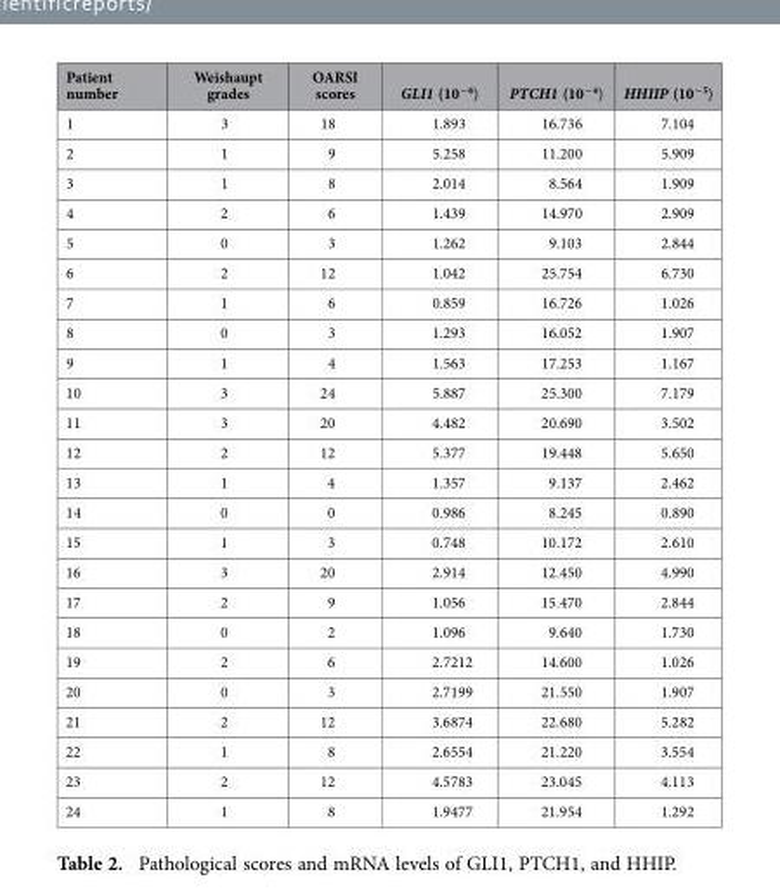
<table><thead><tr><td>Patient number</td><td>Weishaupt grades</td><td>OARSI scores</td><td>GLI1 (10<sup>−6</sup>)</td><td>PTCH1 (10<sup>−4</sup>)</td><td>HHIIP (10<sup>−5</sup>)</td></tr></thead><tbody><tr><td>1</td><td>3</td><td>18</td><td>1.893</td><td>16.736</td><td>7.104</td></tr><tr><td>2</td><td>1</td><td>9</td><td>5.258</td><td>11.200</td><td>5.909</td></tr><tr><td>3</td><td>1</td><td>8</td><td>2.014</td><td>8.564</td><td>1.909</td></tr><tr><td>4</td><td>2</td><td>6</td><td>1.439</td><td>14.970</td><td>2.909</td></tr><tr><td>5</td><td>0</td><td>3</td><td>1.262</td><td>9.103</td><td>2.844</td></tr><tr><td>6</td><td>2</td><td>12</td><td>1.042</td><td>25.754</td><td>6.730</td></tr><tr><td>7</td><td>1</td><td>6</td><td>0.859</td><td>16.726</td><td>1.026</td></tr><tr><td>8</td><td>0</td><td>3</td><td>1.293</td><td>16.052</td><td>1.907</td></tr><tr><td>9</td><td>1</td><td>4</td><td>1.563</td><td>17.253</td><td>1.167</td></tr><tr><td>10</td><td>3</td><td>24</td><td>5.887</td><td>25.300</td><td>7.179</td></tr><tr><td>11</td><td>3</td><td>20</td><td>4.482</td><td>20.690</td><td>3.502</td></tr><tr><td>12</td><td>2</td><td>12</td><td>5.377</td><td>19.448</td><td>5.650</td></tr><tr><td>13</td><td>1</td><td>4</td><td>1.357</td><td>9.137</td><td>2.462</td></tr><tr><td>14</td><td>0</td><td>0</td><td>0.986</td><td>8.245</td><td>0.890</td></tr><tr><td>15</td><td>1</td><td>3</td><td>0.748</td><td>10.172</td><td>2.610</td></tr><tr><td>16</td><td>3</td><td>20</td><td>2.914</td><td>12.450</td><td>4.990</td></tr><tr><td>17</td><td>2</td><td>9</td><td>1.056</td><td>15.470</td><td>2.844</td></tr><tr><td>18</td><td>0</td><td>2</td><td>1.096</td><td>9.640</td><td>1.730</td></tr><tr><td>19</td><td>2</td><td>6</td><td>2.7212</td><td>14.600</td><td>1.026</td></tr><tr><td>20</td><td>0</td><td>3</td><td>2.7199</td><td>21.550</td><td>1.907</td></tr><tr><td>21</td><td>2</td><td>12</td><td>3.6874</td><td>22.680</td><td>5.282</td></tr><tr><td>22</td><td>1</td><td>8</td><td>2.6554</td><td>21.220</td><td>3.554</td></tr><tr><td>23</td><td>2</td><td>12</td><td>4.5783</td><td>23.045</td><td>4.113</td></tr><tr><td>24</td><td>1</td><td>8</td><td>1.9477</td><td>21.954</td><td>1.292</td></tr></tbody></table>